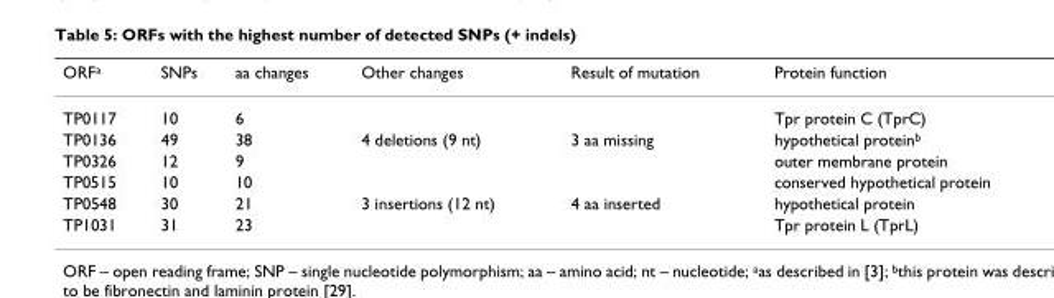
<table><thead><tr><td>ORF<sup>a</sup></td><td>SNPs</td><td>aa changes</td><td>Other changes</td><td>Result of mutation</td><td>Protein function</td></tr></thead><tbody><tr><td>TP0117</td><td>10</td><td>6</td><td></td><td></td><td>Tpr protein C (TprC)</td></tr><tr><td>TP0136</td><td>49</td><td>38</td><td>4 deletions (9 nt)</td><td>3 aa missing</td><td>hypothetical protein<sup>b</sup></td></tr><tr><td>TP0326</td><td>12</td><td>9</td><td></td><td></td><td>outer membrane protein</td></tr><tr><td>TP0515</td><td>10</td><td>10</td><td></td><td></td><td>conserved hypothetical protein</td></tr><tr><td>TP0548</td><td>30</td><td>21</td><td>3 insertions (12 nt)</td><td>4 aa inserted</td><td>hypothetical protein</td></tr><tr><td>TP1031</td><td>31</td><td>23</td><td></td><td></td><td>Tpr protein L (TprL)</td></tr></tbody></table>